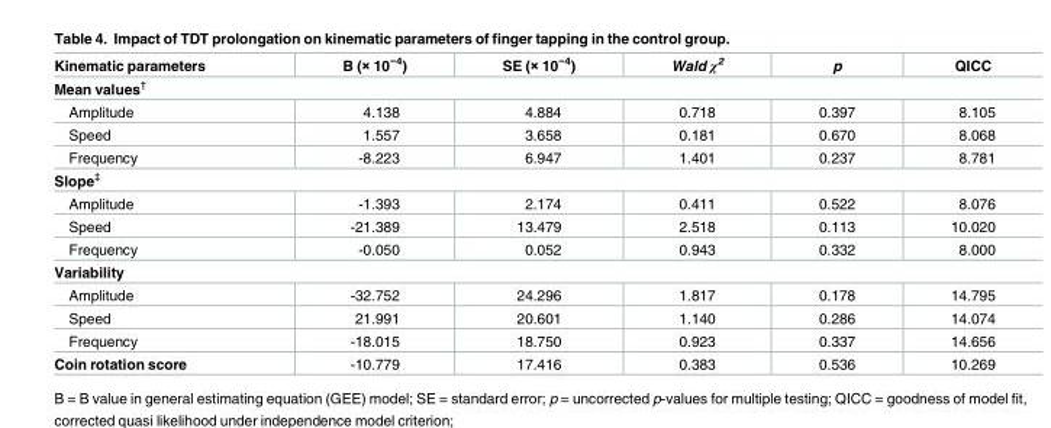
<table><thead><tr><td>Kinematic parameters</td><td>B (× 10<sup>−4</sup>)</td><td>SE (× 10<sup>−4</sup>)</td><td>Wald χ<sup>2</sup></td><td>p</td><td>QICC</td></tr></thead><tbody><tr><td colspan="6">Mean values<sup>†</sup></td></tr><tr><td>Amplitude</td><td>4.138</td><td>4.884</td><td>0.718</td><td>0.397</td><td>8.105</td></tr><tr><td>Speed</td><td>1.557</td><td>3.658</td><td>0.181</td><td>0.670</td><td>8.068</td></tr><tr><td>Frequency</td><td>-8.223</td><td>6.947</td><td>1.401</td><td>0.237</td><td>8.781</td></tr><tr><td colspan="6">Slope<sup>‡</sup></td></tr><tr><td>Amplitude</td><td>-1.393</td><td>2.174</td><td>0.411</td><td>0.522</td><td>8.076</td></tr><tr><td>Speed</td><td>-21.389</td><td>13.479</td><td>2.518</td><td>0.113</td><td>10.020</td></tr><tr><td>Frequency</td><td>-0.050</td><td>0.052</td><td>0.943</td><td>0.332</td><td>8.000</td></tr><tr><td colspan="6">Variability</td></tr><tr><td>Amplitude</td><td>-32.752</td><td>24.296</td><td>1.817</td><td>0.178</td><td>14.795</td></tr><tr><td>Speed</td><td>21.991</td><td>20.601</td><td>1.140</td><td>0.286</td><td>14.074</td></tr><tr><td>Frequency</td><td>-18.015</td><td>18.750</td><td>0.923</td><td>0.337</td><td>14.656</td></tr><tr><td>Coin rotation score</td><td>-10.779</td><td>17.416</td><td>0.383</td><td>0.536</td><td>10.269</td></tr></tbody></table>